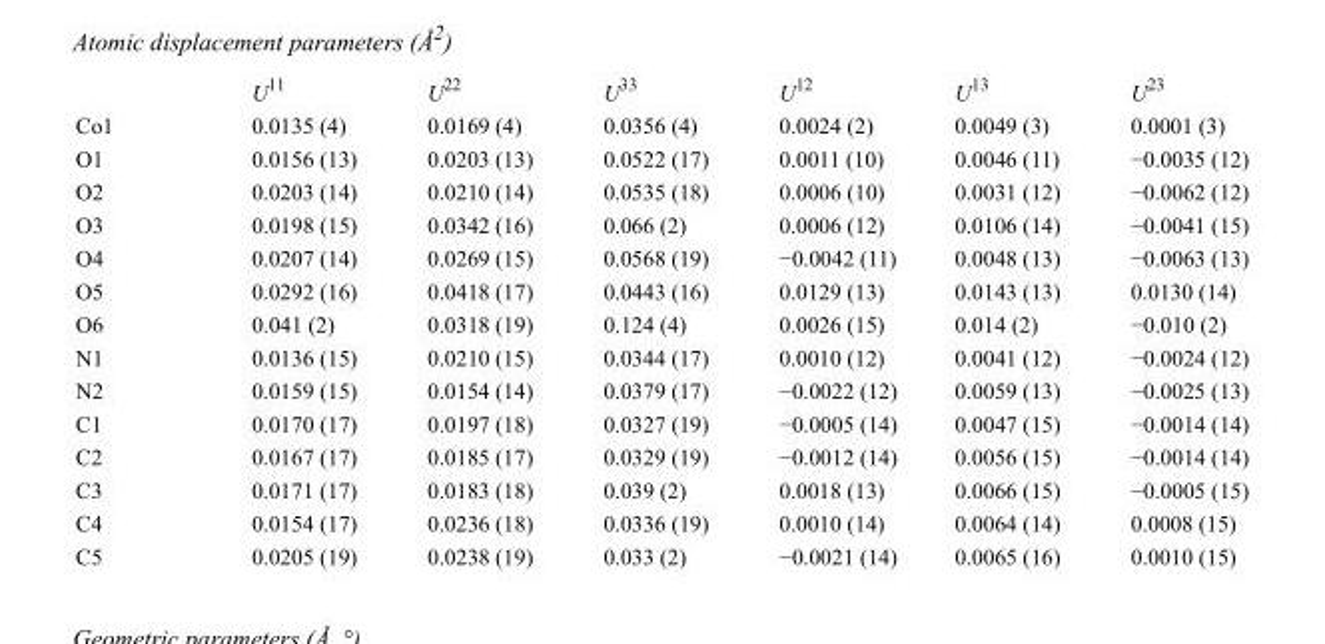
<table><thead><tr><td></td><td>U<sup>11</sup></td><td>U<sup>22</sup></td><td>U<sup>33</sup></td><td>U<sup>12</sup></td><td>U<sup>13</sup></td><td>U<sup>23</sup></td></tr></thead><tbody><tr><td>Co1</td><td>0.0135 (4)</td><td>0.0169 (4)</td><td>0.0356 (4)</td><td>0.0024 (2)</td><td>0.0049 (3)</td><td>0.0001 (3)</td></tr><tr><td>O1</td><td>0.0156 (13)</td><td>0.0203 (13)</td><td>0.0522 (17)</td><td>0.0011 (10)</td><td>0.0046 (11)</td><td>−0.0035 (12)</td></tr><tr><td>O2</td><td>0.0203 (14)</td><td>0.0210 (14)</td><td>0.0535 (18)</td><td>0.0006 (10)</td><td>0.0031 (12)</td><td>−0.0062 (12)</td></tr><tr><td>O3</td><td>0.0198 (15)</td><td>0.0342 (16)</td><td>0.066 (2)</td><td>0.0006 (12)</td><td>0.0106 (14)</td><td>−0.0041 (15)</td></tr><tr><td>O4</td><td>0.0207 (14)</td><td>0.0269 (15)</td><td>0.0568 (19)</td><td>−0.0042 (11)</td><td>0.0048 (13)</td><td>−0.0063 (13)</td></tr><tr><td>O5</td><td>0.0292 (16)</td><td>0.0418 (17)</td><td>0.0443 (16)</td><td>0.0129 (13)</td><td>0.0143 (13)</td><td>0.0130 (14)</td></tr><tr><td>O6</td><td>0.041 (2)</td><td>0.0318 (19)</td><td>0.124 (4)</td><td>0.0026 (15)</td><td>0.014 (2)</td><td>−0.010 (2)</td></tr><tr><td>N1</td><td>0.0136 (15)</td><td>0.0210 (15)</td><td>0.0344 (17)</td><td>0.0010 (12)</td><td>0.0041 (12)</td><td>−0.0024 (12)</td></tr><tr><td>N2</td><td>0.0159 (15)</td><td>0.0154 (14)</td><td>0.0379 (17)</td><td>−0.0022 (12)</td><td>0.0059 (13)</td><td>−0.0025 (13)</td></tr><tr><td>C1</td><td>0.0170 (17)</td><td>0.0197 (18)</td><td>0.0327 (19)</td><td>−0.0005 (14)</td><td>0.0047 (15)</td><td>−0.0014 (14)</td></tr><tr><td>C2</td><td>0.0167 (17)</td><td>0.0185 (17)</td><td>0.0329 (19)</td><td>−0.0012 (14)</td><td>0.0056 (15)</td><td>−0.0014 (14)</td></tr><tr><td>C3</td><td>0.0171 (17)</td><td>0.0183 (18)</td><td>0.039 (2)</td><td>0.0018 (13)</td><td>0.0066 (15)</td><td>−0.0005 (15)</td></tr><tr><td>C4</td><td>0.0154 (17)</td><td>0.0236 (18)</td><td>0.0336 (19)</td><td>0.0010 (14)</td><td>0.0064 (14)</td><td>0.0008 (15)</td></tr><tr><td>C5</td><td>0.0205 (19)</td><td>0.0238 (19)</td><td>0.033 (2)</td><td>−0.0021 (14)</td><td>0.0065 (16)</td><td>0.0010 (15)</td></tr></tbody></table>